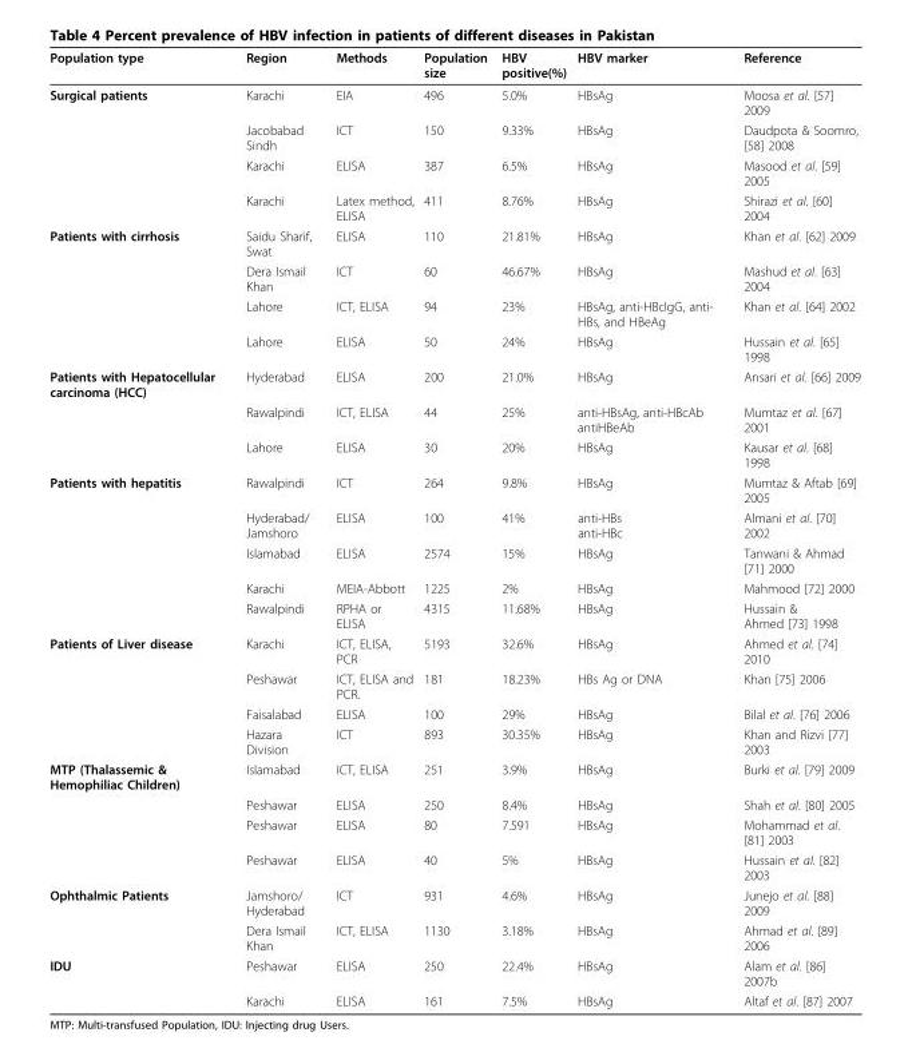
<table><thead><tr><td>Population type</td><td>Region</td><td>Methods</td><td>Population size</td><td>HBV positive(%)</td><td>HBV marker</td><td>Reference</td></tr></thead><tbody><tr><td rowspan="4">Surgical patients</td><td>Karachi</td><td>EIA</td><td>496</td><td>5.0%</td><td>HBsAg</td><td>Moosa et al. [57] 2009</td></tr><tr><td>Jacobabad Sindh</td><td>ICT</td><td>150</td><td>9.33%</td><td>HBsAg</td><td>Daudpota &amp; Soomro, [58] 2008</td></tr><tr><td>Karachi</td><td>ELISA</td><td>387</td><td>6.5%</td><td>HBsAg</td><td>Masood et al. [59] 2005</td></tr><tr><td>Karachi</td><td>Latex method, ELISA</td><td>411</td><td>8.76%</td><td>HBsAg</td><td>Shirazi et al. [60] 2004</td></tr><tr><td rowspan="4">Patients with cirrhosis</td><td>Saidu Sharif, Swat</td><td>ELISA</td><td>110</td><td>21.81%</td><td>HBsAg</td><td>Khan et al. [62] 2009</td></tr><tr><td>Dera Ismail Khan</td><td>ICT</td><td>60</td><td>46.67%</td><td>HBsAg</td><td>Mashud et al. [63] 2004</td></tr><tr><td>Lahore</td><td>ICT, ELISA</td><td>94</td><td>23%</td><td>HBsAg, anti-HBcIgG, anti- HBs, and HBeAg</td><td>Khan et al. [64] 2002</td></tr><tr><td>Lahore</td><td>ELISA</td><td>50</td><td>24%</td><td>HBsAg</td><td>Hussain et al. [65] 1998</td></tr><tr><td rowspan="3">Patients with Hepatocellular carcinoma (HCC)</td><td>Hyderabad</td><td>ELISA</td><td>200</td><td>21.0%</td><td>HBsAg</td><td>Ansari et al. [66] 2009</td></tr><tr><td>Rawalpindi</td><td>ICT, ELISA</td><td>44</td><td>25%</td><td>anti-HBsAg, anti-HBcAb antiHBeAb</td><td>Mumtaz et al. [67] 2001</td></tr><tr><td>Lahore</td><td>ELISA</td><td>30</td><td>20%</td><td>HBsAg</td><td>Kausar et al. [68] 1998</td></tr><tr><td rowspan="5">Patients with hepatitis</td><td>Rawalpindi</td><td>ICT</td><td>264</td><td>9.8%</td><td>HBsAg</td><td>Mumtaz &amp; Aftab [69] 2005</td></tr><tr><td>Hyderabad/ Jamshoro</td><td>ELISA</td><td>100</td><td>41%</td><td>anti-HBs anti-HBc</td><td>Almani et al. [70] 2002</td></tr><tr><td>Islamabad</td><td>ELISA</td><td>2574</td><td>15%</td><td>HBsAg</td><td>Tanwani &amp; Ahmad [71] 2000</td></tr><tr><td>Karachi</td><td>MEIA-Abbott</td><td>1225</td><td>2%</td><td>HBsAg</td><td>Mahmood [72] 2000</td></tr><tr><td>Rawalpindi</td><td>RPHA or ELISA</td><td>4315</td><td>11.68%</td><td>HBsAg</td><td>Hussain &amp; Ahmed [73] 1998</td></tr><tr><td rowspan="4">Patients of Liver disease</td><td>Karachi</td><td>ICT, ELISA, PCR</td><td>5193</td><td>32.6%</td><td>HBsAg</td><td>Ahmed et al. [74] 2010</td></tr><tr><td>Peshawar</td><td>ICT, ELISA and PCR.</td><td>181</td><td>18.23%</td><td>HBs Ag or DNA</td><td>Khan [75] 2006</td></tr><tr><td>Faisalabad</td><td>ELISA</td><td>100</td><td>29%</td><td>HBsAg</td><td>Bilal et al. [76] 2006</td></tr><tr><td>Hazara Division</td><td>ICT</td><td>893</td><td>30.35%</td><td>HBsAg</td><td>Khan and Rizvi [77] 2003</td></tr><tr><td rowspan="4">MTP (Thalassemic &amp; Hemophiliac Children)</td><td>Islamabad</td><td>ICT, ELISA</td><td>251</td><td>3.9%</td><td>HBsAg</td><td>Burki et al. [79] 2009</td></tr><tr><td>Peshawar</td><td>ELISA</td><td>250</td><td>8.4%</td><td>HBsAg</td><td>Shah et al. [80] 2005</td></tr><tr><td>Peshawar</td><td>ELISA</td><td>80</td><td>7.591</td><td>HBsAg</td><td>Mohammad et al. [81] 2003</td></tr><tr><td>Peshawar</td><td>ELISA</td><td>40</td><td>5%</td><td>HBsAg</td><td>Hussain et al. [82] 2003</td></tr><tr><td rowspan="2">Ophthalmic Patients</td><td>Jamshoro/ Hyderabad</td><td>ICT</td><td>931</td><td>4.6%</td><td>HBsAg</td><td>Junejo et al. [88] 2009</td></tr><tr><td>Dera Ismail Khan</td><td>ICT, ELISA</td><td>1130</td><td>3.18%</td><td>HBsAg</td><td>Ahmad et al. [89] 2006</td></tr><tr><td rowspan="2">IDU</td><td>Peshawar</td><td>ELISA</td><td>250</td><td>22.4%</td><td>HBsAg</td><td>Alam et al. [86] 2007b</td></tr><tr><td>Karachi</td><td>ELISA</td><td>161</td><td>7.5%</td><td>HBsAg</td><td>Altaf et al. [87] 2007</td></tr></tbody></table>